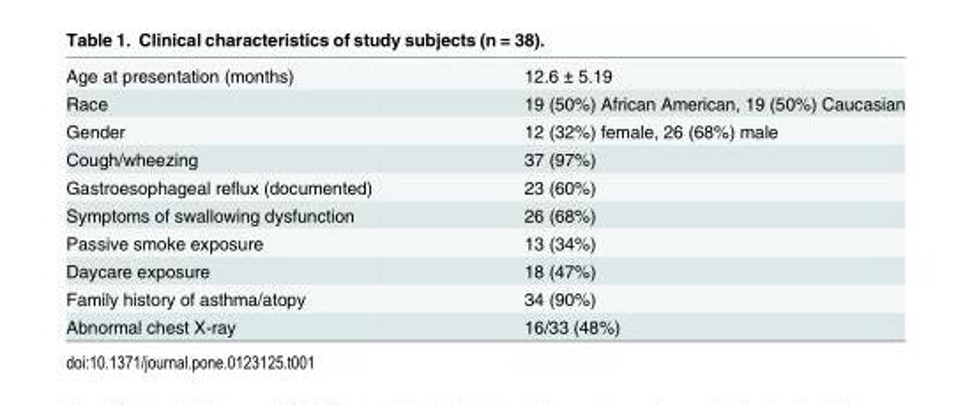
<table><tbody><tr><td>Age at presentation (months)</td><td>12.6 ± 5.19</td></tr><tr><td>Race</td><td>19 (50%) African American, 19 (50%) Caucasian</td></tr><tr><td>Gender</td><td>12 (32%) female, 26 (68%) male</td></tr><tr><td>Cough/wheezing</td><td>37 (97%)</td></tr><tr><td>Gastroesophageal reflux (documented)</td><td>23 (60%)</td></tr><tr><td>Symptoms of swallowing dysfunction</td><td>26 (68%)</td></tr><tr><td>Passive smoke exposure</td><td>13 (34%)</td></tr><tr><td>Daycare exposure</td><td>18 (47%)</td></tr><tr><td>Family history of asthma/atopy</td><td>34 (90%)</td></tr><tr><td>Abnormal chest X-ray</td><td>16/33 (48%)</td></tr></tbody></table>